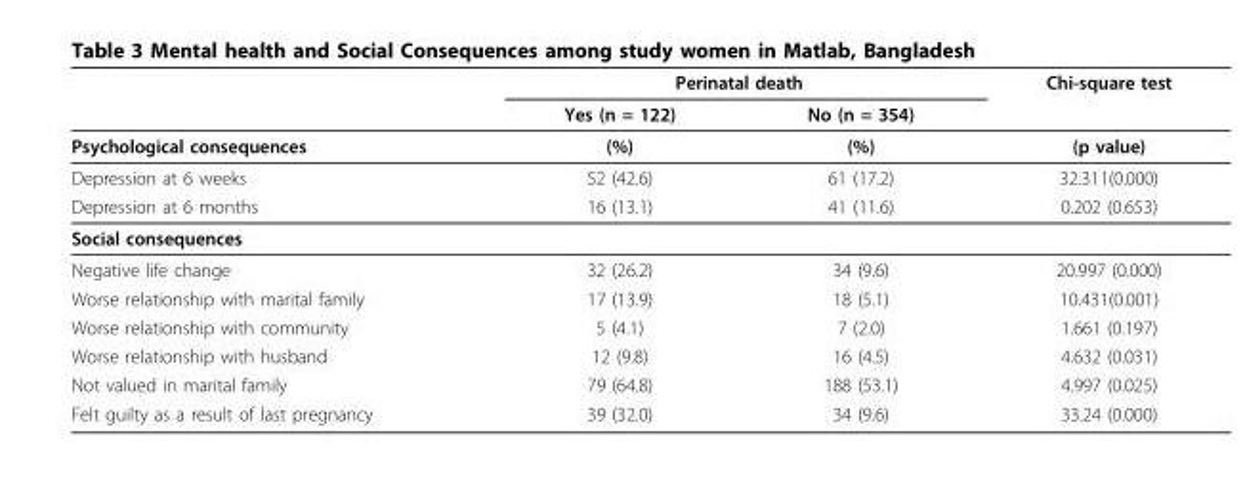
<table><thead><tr><td rowspan="2"></td><td colspan="2">Perinatal death</td><td rowspan="2">Chi-square test</td></tr><tr><td>Yes (n = 122)</td><td>No (n = 354)</td></tr></thead><tbody><tr><td>Psychological consequences</td><td>(%)</td><td>(%)</td><td>(p value)</td></tr><tr><td>Depression at 6 weeks</td><td>52 (42.6)</td><td>61 (17.2)</td><td>32.311(0.000)</td></tr><tr><td>Depression at 6 months</td><td>16 (13.1)</td><td>41 (11.6)</td><td>0.202 (0.653)</td></tr><tr><td colspan="4">Social consequences</td></tr><tr><td>Negative life change</td><td>32 (26.2)</td><td>34 (9.6)</td><td>20.997 (0.000)</td></tr><tr><td>Worse relationship with marital family</td><td>17 (13.9)</td><td>18 (5.1)</td><td>10.431(0.001)</td></tr><tr><td>Worse relationship with community</td><td>5 (4.1)</td><td>7 (2.0)</td><td>1.661 (0.197)</td></tr><tr><td>Worse relationship with husband</td><td>12 (9.8)</td><td>16 (4.5)</td><td>4.632 (0.031)</td></tr><tr><td>Not valued in marital family</td><td>79 (64.8)</td><td>188 (53.1)</td><td>4.997 (0.025)</td></tr><tr><td>Felt guilty as a result of last pregnancy</td><td>39 (32.0)</td><td>34 (9.6)</td><td>33.24 (0.000)</td></tr></tbody></table>